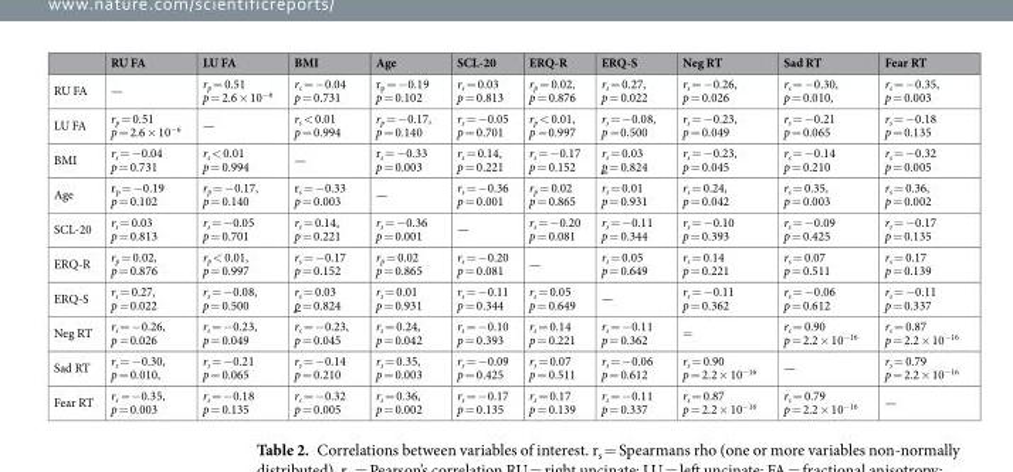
<table><thead><tr><td></td><td>RU FA</td><td>LU FA</td><td>BMI</td><td>Age</td><td>SCL-20</td><td>ERQ-R</td><td>ERQ-S</td><td>Neg RT</td><td>Sad RT</td><td>Fear RT</td></tr></thead><tbody><tr><td>RU FA</td><td>—</td><td>r<sub>p</sub> = 0.51 p = 2.6 × 10<sup>−6</sup></td><td>r<sub>s</sub> = −0.04 p = 0.731</td><td>r<sub>p</sub> = −0.19 p = 0.102</td><td>r<sub>s</sub> = 0.03 p = 0.813</td><td>r<sub>p</sub> = 0.02, p = 0.876</td><td>r<sub>s</sub> = 0.27, p = 0.022</td><td>r<sub>s</sub> = −0.26, p = 0.026</td><td>r<sub>s</sub> = −0.30, p = 0.010,</td><td>r<sub>s</sub> = −0.35, p = 0.003</td></tr><tr><td>LU FA</td><td>r<sub>p</sub> = 0.51 p = 2.6 × 10<sup>−6</sup></td><td>—</td><td>r<sub>s</sub> &lt; 0.01 p = 0.994</td><td>r<sub>p</sub> = −0.17, p = 0.140</td><td>r<sub>s</sub> = −0.05 p = 0.701</td><td>r<sub>p</sub> &lt; 0.01, p = 0.997</td><td>r<sub>s</sub> = −0.08, p = 0.500</td><td>r<sub>s</sub> = −0.23, p = 0.049</td><td>r<sub>s</sub> = −0.21 p = 0.065</td><td>r<sub>s</sub> = −0.18 p = 0.135</td></tr><tr><td>BMI</td><td>r<sub>s</sub> = −0.04 p = 0.731</td><td>r<sub>s</sub> &lt; 0.01 p = 0.994</td><td>—</td><td>r<sub>s</sub> = −0.33 p = 0.003</td><td>r<sub>s</sub> = 0.14, p = 0.221</td><td>r<sub>s</sub> = −0.17 p = 0.152</td><td>r<sub>s</sub> = 0.03 p = 0.824</td><td>r<sub>s</sub> = −0.23, p = 0.045</td><td>r<sub>s</sub> = −0.14 p = 0.210</td><td>r<sub>s</sub> = −0.32 p = 0.005</td></tr><tr><td>Age</td><td>r<sub>p</sub> = −0.19 p = 0.102</td><td>r<sub>p</sub> = −0.17, p = 0.140</td><td>r<sub>s</sub> = −0.33 p = 0.003</td><td>—</td><td>r<sub>s</sub> = −0.36 p = 0.001</td><td>r<sub>p</sub> = 0.02 p = 0.865</td><td>r<sub>s</sub> = 0.01 p = 0.931</td><td>r<sub>s</sub> = 0.24, p = 0.042</td><td>r<sub>s</sub> = 0.35, p = 0.003</td><td>r<sub>s</sub> = 0.36, p = 0.002</td></tr><tr><td>SCL-20</td><td>r<sub>s</sub> = 0.03 p = 0.813</td><td>r<sub>s</sub> = −0.05 p = 0.701</td><td>r<sub>s</sub> = 0.14, p = 0.221</td><td>r<sub>s</sub> = −0.36 p = 0.001</td><td>—</td><td>r<sub>s</sub> = −0.20 p = 0.081</td><td>r<sub>s</sub> = −0.11 p = 0.344</td><td>r<sub>s</sub> = −0.10 p = 0.393</td><td>r<sub>s</sub> = −0.09 p = 0.425</td><td>r<sub>s</sub> = −0.17 p = 0.135</td></tr><tr><td>ERQ-R</td><td>r<sub>p</sub> = 0.02, p = 0.876</td><td>r<sub>p</sub> &lt; 0.01, p = 0.997</td><td>r<sub>s</sub> = −0.17 p = 0.152</td><td>r<sub>p</sub> = 0.02 p = 0.865</td><td>r<sub>s</sub> = −0.20 p = 0.081</td><td>—</td><td>r<sub>s</sub> = 0.05 p = 0.649</td><td>r<sub>s</sub> = 0.14 p = 0.221</td><td>r<sub>s</sub> = 0.07 p = 0.511</td><td>r<sub>s</sub> = 0.17 p = 0.139</td></tr><tr><td>ERQ-S</td><td>r<sub>s</sub> = 0.27, p = 0.022</td><td>r<sub>s</sub> = −0.08, p = 0.500</td><td>r<sub>s</sub> = 0.03 p = 0.824</td><td>r<sub>s</sub> = 0.01 p = 0.931</td><td>r<sub>s</sub> = −0.11 p = 0.344</td><td>r<sub>s</sub> = 0.05 p = 0.649</td><td>—</td><td>r<sub>s</sub> = −0.11 p = 0.362</td><td>r<sub>s</sub> = −0.06 p = 0.612</td><td>r<sub>s</sub> = −0.11 p = 0.337</td></tr><tr><td>Neg RT</td><td>r<sub>s</sub> = −0.26, p = 0.026</td><td>r<sub>s</sub> = −0.23, p = 0.049</td><td>r<sub>s</sub> = −0.23, p = 0.045</td><td>r<sub>s</sub> = 0.24, p = 0.042</td><td>r<sub>s</sub> = −0.10 p = 0.393</td><td>r<sub>s</sub> = 0.14 p = 0.221</td><td>r<sub>s</sub> = −0.11 p = 0.362</td><td>=</td><td>r<sub>s</sub> = 0.90 p = 2.2 × 10<sup>−16</sup></td><td>r<sub>s</sub> = 0.87 p = 2.2 × 10<sup>−16</sup></td></tr><tr><td>Sad RT</td><td>r<sub>s</sub> = −0.30, p = 0.010,</td><td>r<sub>s</sub> = −0.21 p = 0.065</td><td>r<sub>s</sub> = −0.14 p = 0.210</td><td>r<sub>s</sub> = 0.35, p = 0.003</td><td>r<sub>s</sub> = −0.09 p = 0.425</td><td>r<sub>s</sub> = 0.07 p = 0.511</td><td>r<sub>s</sub> = −0.06 p = 0.612</td><td>r<sub>s</sub> = 0.90 p = 2.2 × 10<sup>−16</sup></td><td>—</td><td>r<sub>s</sub> = 0.79 p = 2.2 × 10<sup>−16</sup></td></tr><tr><td>Fear RT</td><td>r<sub>s</sub> = −0.35, p = 0.003</td><td>r<sub>s</sub> = −0.18 p = 0.135</td><td>r<sub>s</sub> = −0.32 p = 0.005</td><td>r<sub>s</sub> = 0.36, p = 0.002</td><td>r<sub>s</sub> = −0.17 p = 0.135</td><td>r<sub>s</sub> = 0.17 p = 0.139</td><td>r<sub>s</sub> = −0.11 p = 0.337</td><td>r<sub>s</sub> = 0.87 p = 2.2 × 10<sup>−16</sup></td><td>r<sub>s</sub> = 0.79 p = 2.2 × 10<sup>−16</sup></td><td>—</td></tr></tbody></table>